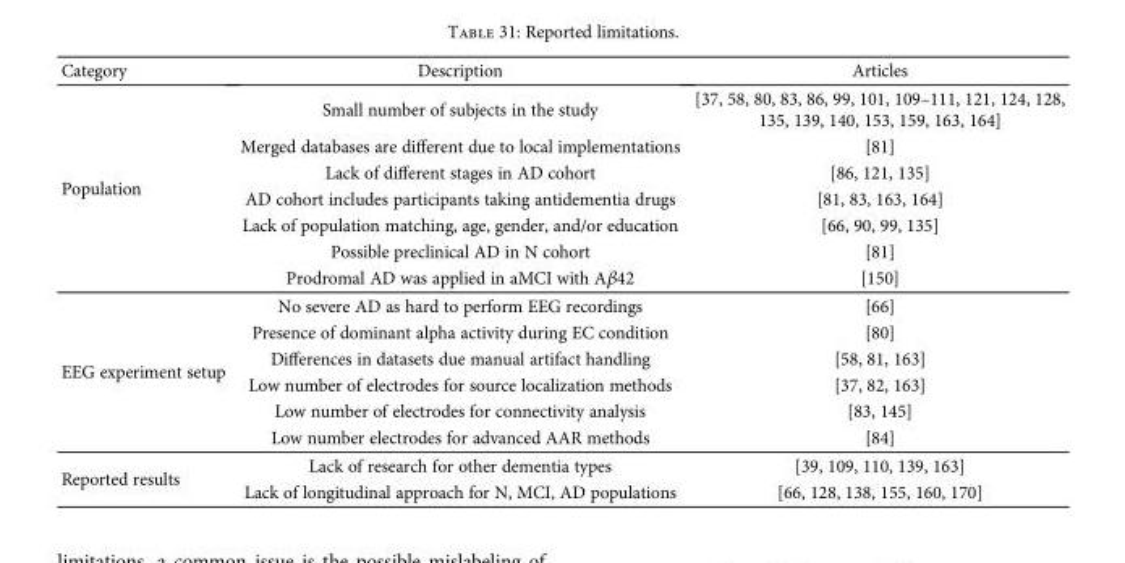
<table><thead><tr><td>Category</td><td>Description</td><td>Articles</td></tr></thead><tbody><tr><td rowspan="7">Population</td><td>Small number of subjects in the study</td><td>[37, 58, 80, 83, 86, 99, 101, 109–111, 121, 124, 128, 135, 139, 140, 153, 159, 163, 164]</td></tr><tr><td>Merged databases are different due to local implementations</td><td>[81]</td></tr><tr><td>Lack of different stages in AD cohort</td><td>[86, 121, 135]</td></tr><tr><td>AD cohort includes participants taking antidementia drugs</td><td>[81, 83, 163, 164]</td></tr><tr><td>Lack of population matching, age, gender, and/or education</td><td>[66, 90, 99, 135]</td></tr><tr><td>Possible preclinical AD in N cohort</td><td>[81]</td></tr><tr><td>Prodromal AD was applied in aMCI with Aβ42</td><td>[150]</td></tr><tr><td rowspan="6">EEG experiment setup</td><td>No severe AD as hard to perform EEG recordings</td><td>[66]</td></tr><tr><td>Presence of dominant alpha activity during EC condition</td><td>[80]</td></tr><tr><td>Differences in datasets due manual artifact handling</td><td>[58, 81, 163]</td></tr><tr><td>Low number of electrodes for source localization methods</td><td>[37, 82, 163]</td></tr><tr><td>Low number of electrodes for connectivity analysis</td><td>[83, 145]</td></tr><tr><td>Low number electrodes for advanced AAR methods</td><td>[84]</td></tr><tr><td rowspan="2">Reported results</td><td>Lack of research for other dementia types</td><td>[39, 109, 110, 139, 163]</td></tr><tr><td>Lack of longitudinal approach for N, MCI, AD populations</td><td>[66, 128, 138, 155, 160, 170]</td></tr></tbody></table>